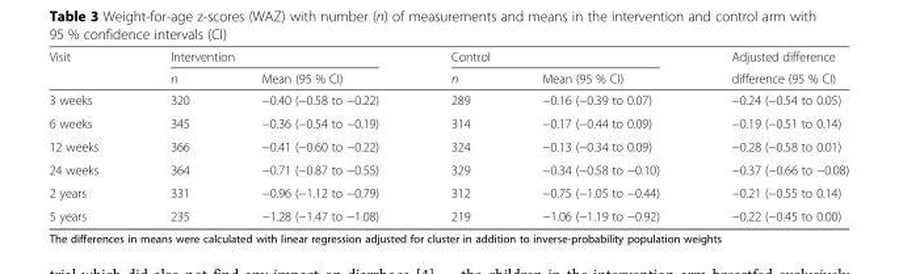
<table><thead><tr><td rowspan="2">Visit</td><td colspan="2">Intervention</td><td colspan="2">Control</td><td rowspan="2">Adjusted difference difference (95 % CI)</td></tr><tr><td>n</td><td>Mean (95 % CI)</td><td>n</td><td>Mean (95 % CI)</td></tr></thead><tbody><tr><td>3 weeks</td><td>320</td><td>−0.40 (−0.58 to −0.22)</td><td>289</td><td>−0.16 (−0.39 to 0.07)</td><td>−0.24 (−0.54 to 0.05)</td></tr><tr><td>6 weeks</td><td>345</td><td>−0.36 (−0.54 to −0.19)</td><td>314</td><td>−0.17 (−0.44 to 0.09)</td><td>−0.19 (−0.51 to 0.14)</td></tr><tr><td>12 weeks</td><td>366</td><td>−0.41 (−0.60 to −0.22)</td><td>324</td><td>−0.13 (−0.34 to 0.09)</td><td>−0.28 (−0.58 to 0.01)</td></tr><tr><td>24 weeks</td><td>364</td><td>−0.71 (−0.87 to −0.55)</td><td>329</td><td>−0.34 (−0.58 to −0.10)</td><td>−0.37 (−0.66 to −0.08)</td></tr><tr><td>2 years</td><td>331</td><td>−0.96 (−1.12 to −0.79)</td><td>312</td><td>−0.75 (−1.05 to −0.44)</td><td>−0.21 (−0.55 to 0.14)</td></tr><tr><td>5 years</td><td>235</td><td>−1.28 (−1.47 to −1.08)</td><td>219</td><td>−1.06 (−1.19 to −0.92)</td><td>−0.22 (−0.45 to 0.00)</td></tr></tbody></table>